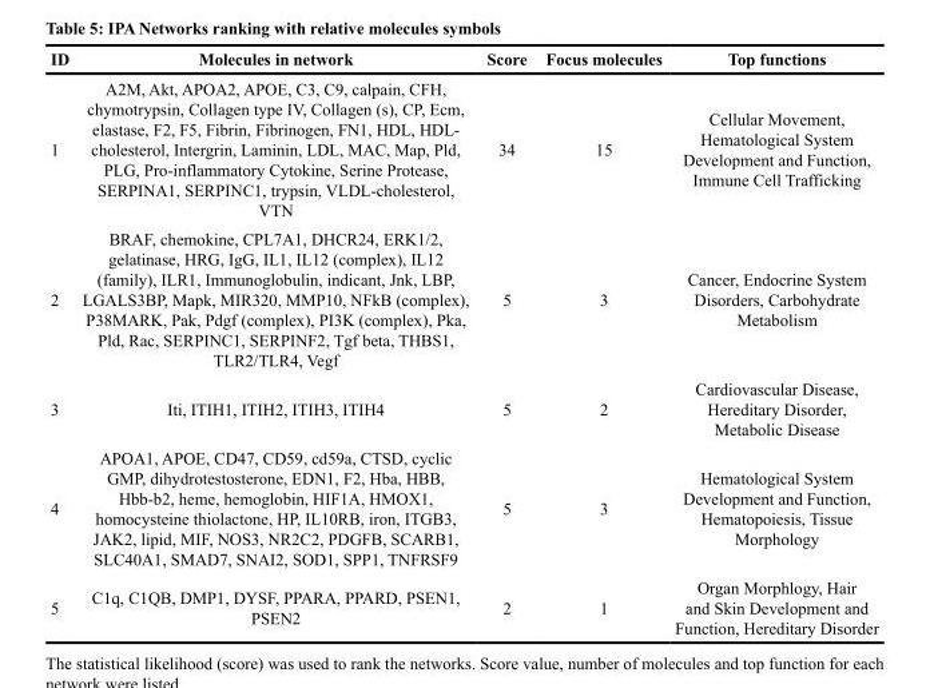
<table><thead><tr><td>ID</td><td>Molecules in network</td><td>Score</td><td>Focus molecules</td><td>Top functions</td></tr></thead><tbody><tr><td>1</td><td>A2M, Akt, APOA2, APOE, C3, C9, calpain, CFH, chymotrypsin, Collagen type IV, Collagen (s), CP, Ecm, elastase, F2, F5, Fibrin, Fibrinogen, FN1, HDL, HDL- cholesterol, Intergrin, Laminin, LDL, MAC, Map, Pld, PLG, Pro-inflammatory Cytokine, Serine Protease, SERPINA1, SERPINC1, trypsin, VLDL-cholesterol, VTN</td><td>34</td><td>15</td><td>Cellular Movement, Hematological System Development and Function, Immune Cell Trafficking</td></tr><tr><td>2</td><td>BRAF, chemokine, CPL7A1, DHCR24, ERK1/2, gelatinase, HRG, IgG, IL1, IL12 (complex), IL12 (family), ILR1, Immunoglobulin, indicant, Jnk, LBP, LGALS3BP, Mapk, MIR320, MMP10, NFkB (complex), P38MARK, Pak, Pdgf (complex), PI3K (complex), Pka, Pld, Rac, SERPINC1, SERPINF2, Tgf beta, THBS1, TLR2/TLR4, Vegf</td><td>5</td><td>3</td><td>Cancer, Endocrine System Disorders, Carbohydrate Metabolism</td></tr><tr><td>3</td><td>Iti, ITIH1, ITIH2, ITIH3, ITIH4</td><td>5</td><td>2</td><td>Cardiovascular Disease, Hereditary Disorder, Metabolic Disease</td></tr><tr><td>4</td><td>APOA1, APOE, CD47, CD59, cd59a, CTSD, cyclic GMP, dihydrotestosterone, EDN1, F2, Hba, HBB, Hbb-b2, heme, hemoglobin, HIF1A, HMOX1, homocysteine thiolactone, HP, IL10RB, iron, ITGB3, JAK2, lipid, MIF, NOS3, NR2C2, PDGFB, SCARB1, SLC40A1, SMAD7, SNAI2, SOD1, SPP1, TNFRSF9</td><td>5</td><td>3</td><td>Hematological System Development and Function, Hematopoiesis, Tissue Morphology</td></tr><tr><td>5</td><td>C1q, C1QB, DMP1, DYSF, PPARA, PPARD, PSEN1, PSEN2</td><td>2</td><td>1</td><td>Organ Morphlogy, Hair and Skin Development and Function, Hereditary Disorder</td></tr></tbody></table>